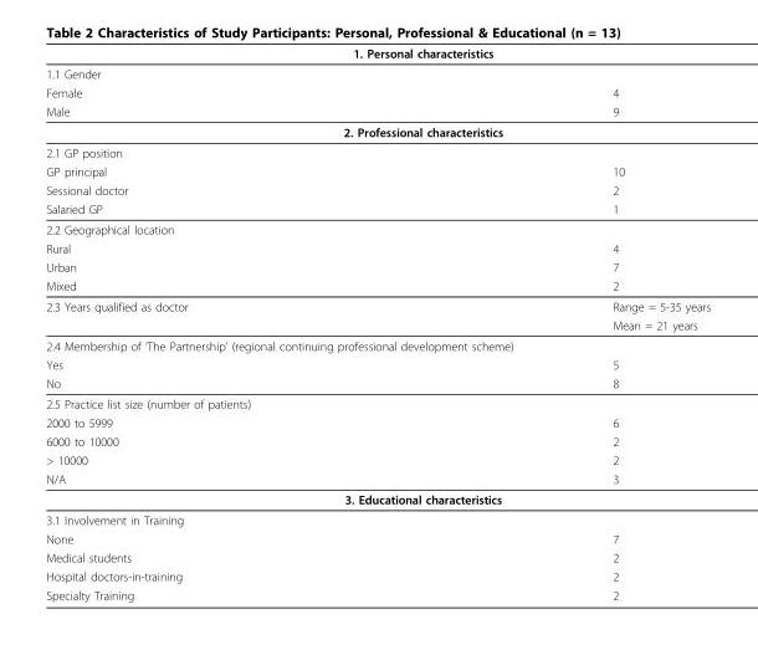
<table><thead><tr><td colspan="2">1. Personal characteristics</td></tr><tr><td>1.1 Gender</td><td></td></tr></thead><tbody><tr><td>Female</td><td>4</td></tr><tr><td>Male</td><td>9</td></tr><tr><td colspan="2">2. Professional characteristics</td></tr><tr><td colspan="2">2.1 GP position</td></tr><tr><td>GP principal</td><td>10</td></tr><tr><td>Sessional doctor</td><td>2</td></tr><tr><td>Salaried GP</td><td>1</td></tr><tr><td colspan="2">2.2 Geographical location</td></tr><tr><td>Rural</td><td>4</td></tr><tr><td>Urban</td><td>7</td></tr><tr><td>Mixed</td><td>2</td></tr><tr><td rowspan="2">2.3 Years qualified as doctor</td><td>Range = 5-35 years</td></tr><tr><td>Mean = 21 years</td></tr><tr><td colspan="2">2.4 Membership of ‘The Partnership’ (regional continuing professional development scheme)</td></tr><tr><td>Yes</td><td>5</td></tr><tr><td>No</td><td>8</td></tr><tr><td colspan="2">2.5 Practice list size (number of patients)</td></tr><tr><td>2000 to 5999</td><td>6</td></tr><tr><td>6000 to 10000</td><td>2</td></tr><tr><td>&gt; 10000</td><td>2</td></tr><tr><td>N/A</td><td>3</td></tr><tr><td colspan="2">3. Educational characteristics</td></tr><tr><td colspan="2">3.1 Involvement in Training</td></tr><tr><td>None</td><td>7</td></tr><tr><td>Medical students</td><td>2</td></tr><tr><td>Hospital doctors-in-training</td><td>2</td></tr><tr><td>Specialty Training</td><td>2</td></tr></tbody></table>